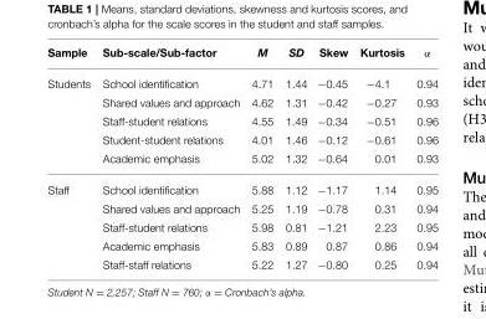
<table><thead><tr><td>Sample</td><td>Sub-scale/Sub-factor</td><td>M</td><td>SD</td><td>Skew</td><td>Kurtosis</td><td>α</td></tr></thead><tbody><tr><td rowspan="5">Students</td><td>School identification</td><td>4.71</td><td>1.44</td><td>−0.45</td><td>−4.1</td><td>0.94</td></tr><tr><td>Shared values and approach</td><td>4.62</td><td>1.31</td><td>−0.42</td><td>−0.27</td><td>0.93</td></tr><tr><td>Staff-student relations</td><td>4.55</td><td>1.49</td><td>−0.34</td><td>−0.51</td><td>0.96</td></tr><tr><td>Student-student relations</td><td>4.01</td><td>1.46</td><td>−0.12</td><td>−0.61</td><td>0.96</td></tr><tr><td>Academic emphasis</td><td>5.02</td><td>1.32</td><td>−0.64</td><td>0.01</td><td>0.93</td></tr><tr><td rowspan="5">Staff</td><td>School identification</td><td>5.88</td><td>1.12</td><td>−1.17</td><td>1.14</td><td>0.95</td></tr><tr><td>Shared values and approach</td><td>5.25</td><td>1.19</td><td>−0.78</td><td>0.31</td><td>0.94</td></tr><tr><td>Staff-student relations</td><td>5.98</td><td>0.81</td><td>−1.21</td><td>2.23</td><td>0.95</td></tr><tr><td>Academic emphasis</td><td>5.83</td><td>0.89</td><td>0.87</td><td>0.86</td><td>0.94</td></tr><tr><td>Staff-staff relations</td><td>5.22</td><td>1.27</td><td>−0.80</td><td>0.25</td><td>0.94</td></tr></tbody></table>